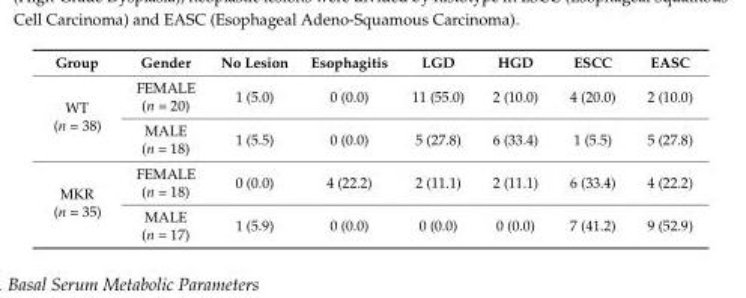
<table><thead><tr><td>Group</td><td>Gender</td><td>No Lesion</td><td>Esophagitis</td><td>LGD</td><td>HGD</td><td>ESCC</td><td>EASC</td></tr></thead><tbody><tr><td rowspan="2">WT (n = 38)</td><td>FEMALE (n = 20)</td><td>1 (5.0)</td><td>0 (0.0)</td><td>11 (55.0)</td><td>2 (10.0)</td><td>4 (20.0)</td><td>2 (10.0)</td></tr><tr><td>MALE (n = 18)</td><td>1 (5.5)</td><td>0 (0.0)</td><td>5 (27.8)</td><td>6 (33.4)</td><td>1 (5.5)</td><td>5 (27.8)</td></tr><tr><td rowspan="2">MKR (n = 35)</td><td>FEMALE (n = 18)</td><td>0 (0.0)</td><td>4 (22.2)</td><td>2 (11.1)</td><td>2 (11.1)</td><td>6 (33.4)</td><td>4 (22.2)</td></tr><tr><td>MALE (n = 17)</td><td>1 (5.9)</td><td>0 (0.0)</td><td>0 (0.0)</td><td>0 (0.0)</td><td>7 (41.2)</td><td>9 (52.9)</td></tr></tbody></table>